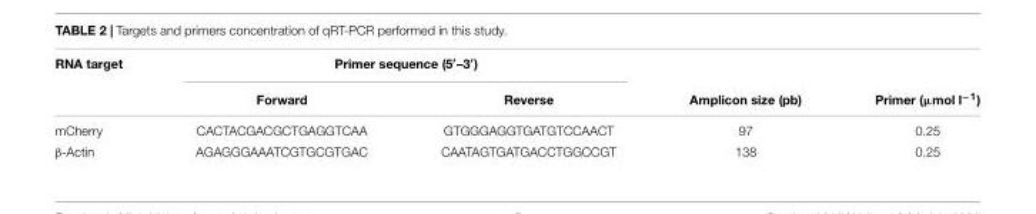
<table><thead><tr><td rowspan="2">RNA target</td><td colspan="2">Primer sequence (5′–3′)</td><td rowspan="2">Amplicon size (pb)</td><td rowspan="2">Primer (µmol l<sup>−1</sup>)</td></tr><tr><td>Forward</td><td>Reverse</td></tr></thead><tbody><tr><td>mCherry</td><td>CACTACGACGCTGAGGTCAA</td><td>GTGGGAGGTGATGTCCAACT</td><td>97</td><td>0.25</td></tr><tr><td>β-Actin</td><td>AGAGGGAAATCGTGCGTGAC</td><td>CAATAGTGATGACCTGGCCGT</td><td>138</td><td>0.25</td></tr></tbody></table>